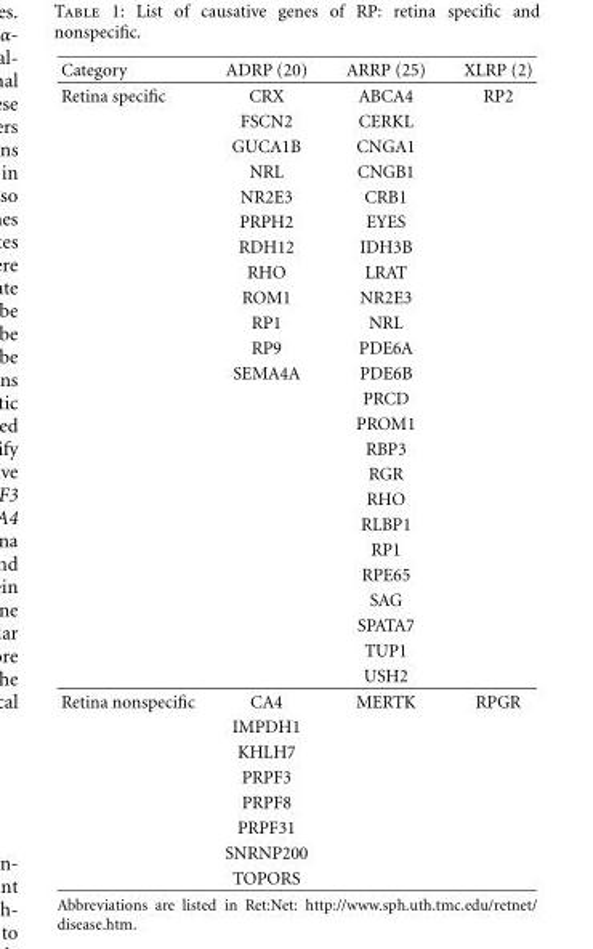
<table><thead><tr><td>Category</td><td>ADRP (20)</td><td>ARRP (25)</td><td>XLRP (2)</td></tr></thead><tbody><tr><td rowspan="24">Retina specific</td><td>CRX</td><td>ABCA4</td><td>RP2</td></tr><tr><td>FSCN2</td><td>CERKL</td><td></td></tr><tr><td>GUCA1B</td><td>CNGA1</td><td></td></tr><tr><td>NRL</td><td>CNGB1</td><td></td></tr><tr><td>NR2E3</td><td>CRB1</td><td></td></tr><tr><td>PRPH2</td><td>EYES</td><td></td></tr><tr><td>RDH12</td><td>IDH3B</td><td></td></tr><tr><td>RHO</td><td>LRAT</td><td></td></tr><tr><td>ROM1</td><td>NR2E3</td><td></td></tr><tr><td>RP1</td><td>NRL</td><td></td></tr><tr><td>RP9</td><td>PDE6A</td><td></td></tr><tr><td>SEMA4A</td><td>PDE6B</td><td></td></tr><tr><td></td><td>PRCD</td><td></td></tr><tr><td></td><td>PROM1</td><td></td></tr><tr><td></td><td>RBP3</td><td></td></tr><tr><td></td><td>RGR</td><td></td></tr><tr><td></td><td>RHO</td><td></td></tr><tr><td></td><td>RLBP1</td><td></td></tr><tr><td></td><td>RP1</td><td></td></tr><tr><td></td><td>RPE65</td><td></td></tr><tr><td></td><td>SAG</td><td></td></tr><tr><td></td><td>SPATA7</td><td></td></tr><tr><td></td><td>TUP1</td><td></td></tr><tr><td></td><td>USH2</td><td></td></tr><tr><td rowspan="8">Retina nonspecific</td><td>CA4</td><td>MERTK</td><td>RPGR</td></tr><tr><td>IMPDH1</td><td></td><td></td></tr><tr><td>KHLH7</td><td></td><td></td></tr><tr><td>PRPF3</td><td></td><td></td></tr><tr><td>PRPF8</td><td></td><td></td></tr><tr><td>PRPF31</td><td></td><td></td></tr><tr><td>SNRNP200</td><td></td><td></td></tr><tr><td>TOPORS</td><td></td><td></td></tr></tbody></table>